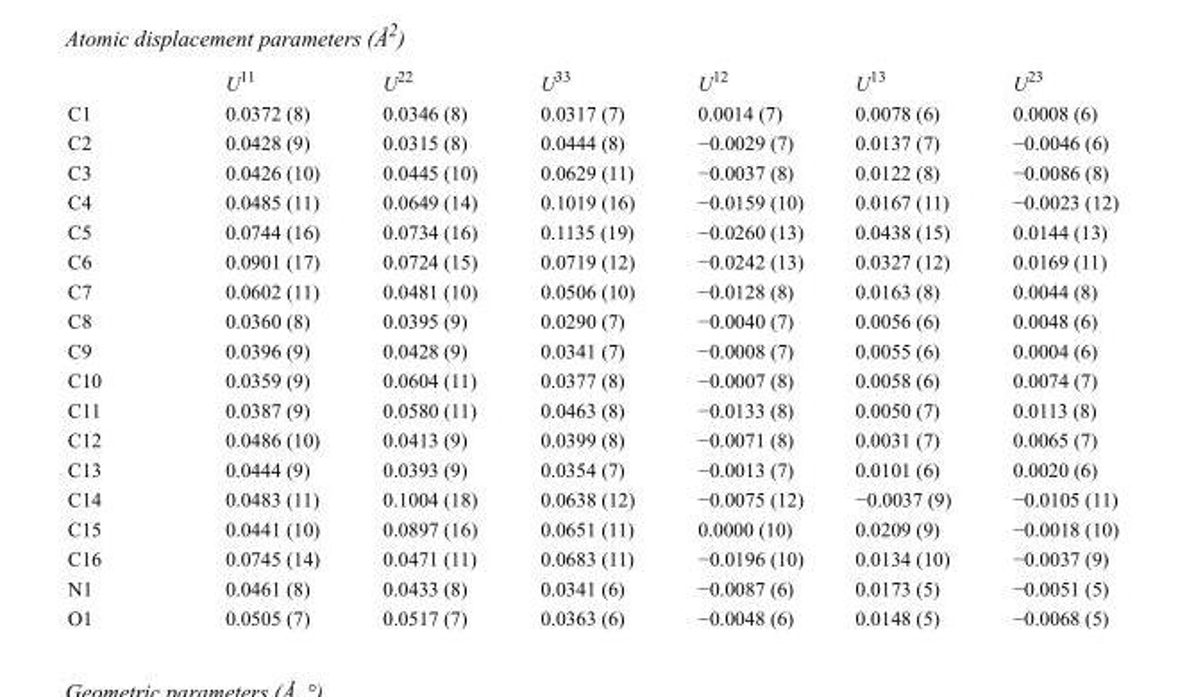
<table><thead><tr><td></td><td>U<sup>11</sup></td><td>U<sup>22</sup></td><td>U<sup>33</sup></td><td>U<sup>12</sup></td><td>U<sup>13</sup></td><td>U<sup>23</sup></td></tr></thead><tbody><tr><td>C1</td><td>0.0372 (8)</td><td>0.0346 (8)</td><td>0.0317 (7)</td><td>0.0014 (7)</td><td>0.0078 (6)</td><td>0.0008 (6)</td></tr><tr><td>C2</td><td>0.0428 (9)</td><td>0.0315 (8)</td><td>0.0444 (8)</td><td>−0.0029 (7)</td><td>0.0137 (7)</td><td>−0.0046 (6)</td></tr><tr><td>C3</td><td>0.0426 (10)</td><td>0.0445 (10)</td><td>0.0629 (11)</td><td>−0.0037 (8)</td><td>0.0122 (8)</td><td>−0.0086 (8)</td></tr><tr><td>C4</td><td>0.0485 (11)</td><td>0.0649 (14)</td><td>0.1019 (16)</td><td>−0.0159 (10)</td><td>0.0167 (11)</td><td>−0.0023 (12)</td></tr><tr><td>C5</td><td>0.0744 (16)</td><td>0.0734 (16)</td><td>0.1135 (19)</td><td>−0.0260 (13)</td><td>0.0438 (15)</td><td>0.0144 (13)</td></tr><tr><td>C6</td><td>0.0901 (17)</td><td>0.0724 (15)</td><td>0.0719 (12)</td><td>−0.0242 (13)</td><td>0.0327 (12)</td><td>0.0169 (11)</td></tr><tr><td>C7</td><td>0.0602 (11)</td><td>0.0481 (10)</td><td>0.0506 (10)</td><td>−0.0128 (8)</td><td>0.0163 (8)</td><td>0.0044 (8)</td></tr><tr><td>C8</td><td>0.0360 (8)</td><td>0.0395 (9)</td><td>0.0290 (7)</td><td>−0.0040 (7)</td><td>0.0056 (6)</td><td>0.0048 (6)</td></tr><tr><td>C9</td><td>0.0396 (9)</td><td>0.0428 (9)</td><td>0.0341 (7)</td><td>−0.0008 (7)</td><td>0.0055 (6)</td><td>0.0004 (6)</td></tr><tr><td>C10</td><td>0.0359 (9)</td><td>0.0604 (11)</td><td>0.0377 (8)</td><td>−0.0007 (8)</td><td>0.0058 (6)</td><td>0.0074 (7)</td></tr><tr><td>C11</td><td>0.0387 (9)</td><td>0.0580 (11)</td><td>0.0463 (8)</td><td>−0.0133 (8)</td><td>0.0050 (7)</td><td>0.0113 (8)</td></tr><tr><td>C12</td><td>0.0486 (10)</td><td>0.0413 (9)</td><td>0.0399 (8)</td><td>−0.0071 (8)</td><td>0.0031 (7)</td><td>0.0065 (7)</td></tr><tr><td>C13</td><td>0.0444 (9)</td><td>0.0393 (9)</td><td>0.0354 (7)</td><td>−0.0013 (7)</td><td>0.0101 (6)</td><td>0.0020 (6)</td></tr><tr><td>C14</td><td>0.0483 (11)</td><td>0.1004 (18)</td><td>0.0638 (12)</td><td>−0.0075 (12)</td><td>−0.0037 (9)</td><td>−0.0105 (11)</td></tr><tr><td>C15</td><td>0.0441 (10)</td><td>0.0897 (16)</td><td>0.0651 (11)</td><td>0.0000 (10)</td><td>0.0209 (9)</td><td>−0.0018 (10)</td></tr><tr><td>C16</td><td>0.0745 (14)</td><td>0.0471 (11)</td><td>0.0683 (11)</td><td>−0.0196 (10)</td><td>0.0134 (10)</td><td>−0.0037 (9)</td></tr><tr><td>N1</td><td>0.0461 (8)</td><td>0.0433 (8)</td><td>0.0341 (6)</td><td>−0.0087 (6)</td><td>0.0173 (5)</td><td>−0.0051 (5)</td></tr><tr><td>O1</td><td>0.0505 (7)</td><td>0.0517 (7)</td><td>0.0363 (6)</td><td>−0.0048 (6)</td><td>0.0148 (5)</td><td>−0.0068 (5)</td></tr></tbody></table>